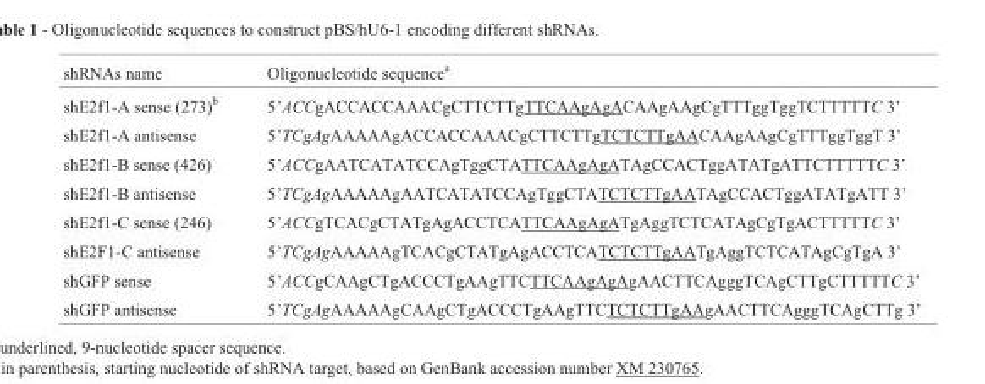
<table><thead><tr><td>shRNAs name</td><td>Oligonucleotide sequence<sup>a</sup></td></tr></thead><tbody><tr><td>shE2f1-A sense (273)<sup>b</sup></td><td>5’ACCgACCACCAAACgCTTCTTgTTCAAgAgACAAgAAgCgTTTggTggTCTTTTTC 3’</td></tr><tr><td>shE2f1-A antisense</td><td>5’TCgAgAAAAAgACCACCAAACgCTTCTTgTCTCTTgAACAAgAAgCgTTTggTggT 3’</td></tr><tr><td>shE2f1-B sense (426)</td><td>5’ACCgAATCATATCCAgTggCTATTCAAgAgATAgCCACTggATATgATTCTTTTTC 3’</td></tr><tr><td>shE2f1-B antisense</td><td>5’TCgAgAAAAAgAATCATATCCAgTggCTATCTCTTgAATAgCCACTggATATgATT 3’</td></tr><tr><td>shE2f1-C sense (246)</td><td>5’ACCgTCACgCTATgAgACCTCATTCAAgAgATgAggTCTCATAgCgTgACTTTTTC 3’</td></tr><tr><td>shE2F1-C antisense</td><td>5’TCgAgAAAAAgTCACgCTATgAgACCTCATCTCTTgAATgAggTCTCATAgCgTgA 3’</td></tr><tr><td>shGFP sense</td><td>5’ACCgCAAgCTgACCCTgAAgTTCTTCAAgAgAgAACTTCAgggTCAgCTTgCTTTTTC 3’</td></tr><tr><td>shGFP antisense</td><td>5’TCgAgAAAAAgCAAgCTgACCCTgAAgTTCTCTCTTgAAgAACTTCAgggTCAgCTTg 3’</td></tr></tbody></table>